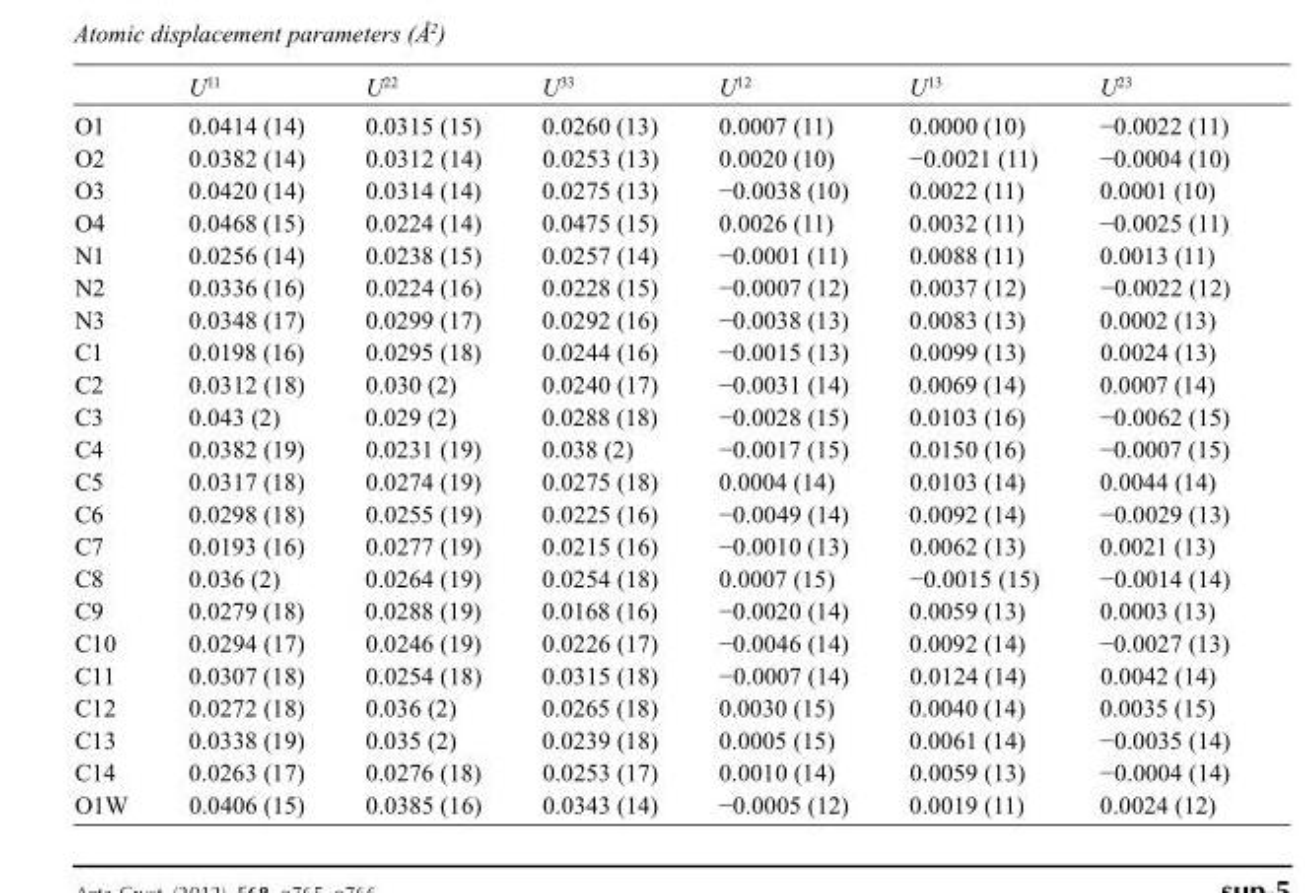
<table><thead><tr><td></td><td>U<sup>11</sup></td><td>U<sup>22</sup></td><td>U<sup>33</sup></td><td>U<sup>12</sup></td><td>U<sup>13</sup></td><td>U<sup>23</sup></td></tr></thead><tbody><tr><td>O1</td><td>0.0414 (14)</td><td>0.0315 (15)</td><td>0.0260 (13)</td><td>0.0007 (11)</td><td>0.0000 (10)</td><td>−0.0022 (11)</td></tr><tr><td>O2</td><td>0.0382 (14)</td><td>0.0312 (14)</td><td>0.0253 (13)</td><td>0.0020 (10)</td><td>−0.0021 (11)</td><td>−0.0004 (10)</td></tr><tr><td>O3</td><td>0.0420 (14)</td><td>0.0314 (14)</td><td>0.0275 (13)</td><td>−0.0038 (10)</td><td>0.0022 (11)</td><td>0.0001 (10)</td></tr><tr><td>O4</td><td>0.0468 (15)</td><td>0.0224 (14)</td><td>0.0475 (15)</td><td>0.0026 (11)</td><td>0.0032 (11)</td><td>−0.0025 (11)</td></tr><tr><td>N1</td><td>0.0256 (14)</td><td>0.0238 (15)</td><td>0.0257 (14)</td><td>−0.0001 (11)</td><td>0.0088 (11)</td><td>0.0013 (11)</td></tr><tr><td>N2</td><td>0.0336 (16)</td><td>0.0224 (16)</td><td>0.0228 (15)</td><td>−0.0007 (12)</td><td>0.0037 (12)</td><td>−0.0022 (12)</td></tr><tr><td>N3</td><td>0.0348 (17)</td><td>0.0299 (17)</td><td>0.0292 (16)</td><td>−0.0038 (13)</td><td>0.0083 (13)</td><td>0.0002 (13)</td></tr><tr><td>C1</td><td>0.0198 (16)</td><td>0.0295 (18)</td><td>0.0244 (16)</td><td>−0.0015 (13)</td><td>0.0099 (13)</td><td>0.0024 (13)</td></tr><tr><td>C2</td><td>0.0312 (18)</td><td>0.030 (2)</td><td>0.0240 (17)</td><td>−0.0031 (14)</td><td>0.0069 (14)</td><td>0.0007 (14)</td></tr><tr><td>C3</td><td>0.043 (2)</td><td>0.029 (2)</td><td>0.0288 (18)</td><td>−0.0028 (15)</td><td>0.0103 (16)</td><td>−0.0062 (15)</td></tr><tr><td>C4</td><td>0.0382 (19)</td><td>0.0231 (19)</td><td>0.038 (2)</td><td>−0.0017 (15)</td><td>0.0150 (16)</td><td>−0.0007 (15)</td></tr><tr><td>C5</td><td>0.0317 (18)</td><td>0.0274 (19)</td><td>0.0275 (18)</td><td>0.0004 (14)</td><td>0.0103 (14)</td><td>0.0044 (14)</td></tr><tr><td>C6</td><td>0.0298 (18)</td><td>0.0255 (19)</td><td>0.0225 (16)</td><td>−0.0049 (14)</td><td>0.0092 (14)</td><td>−0.0029 (13)</td></tr><tr><td>C7</td><td>0.0193 (16)</td><td>0.0277 (19)</td><td>0.0215 (16)</td><td>−0.0010 (13)</td><td>0.0062 (13)</td><td>0.0021 (13)</td></tr><tr><td>C8</td><td>0.036 (2)</td><td>0.0264 (19)</td><td>0.0254 (18)</td><td>0.0007 (15)</td><td>−0.0015 (15)</td><td>−0.0014 (14)</td></tr><tr><td>C9</td><td>0.0279 (18)</td><td>0.0288 (19)</td><td>0.0168 (16)</td><td>−0.0020 (14)</td><td>0.0059 (13)</td><td>0.0003 (13)</td></tr><tr><td>C10</td><td>0.0294 (17)</td><td>0.0246 (19)</td><td>0.0226 (17)</td><td>−0.0046 (14)</td><td>0.0092 (14)</td><td>−0.0027 (13)</td></tr><tr><td>C11</td><td>0.0307 (18)</td><td>0.0254 (18)</td><td>0.0315 (18)</td><td>−0.0007 (14)</td><td>0.0124 (14)</td><td>0.0042 (14)</td></tr><tr><td>C12</td><td>0.0272 (18)</td><td>0.036 (2)</td><td>0.0265 (18)</td><td>0.0030 (15)</td><td>0.0040 (14)</td><td>0.0035 (15)</td></tr><tr><td>C13</td><td>0.0338 (19)</td><td>0.035 (2)</td><td>0.0239 (18)</td><td>0.0005 (15)</td><td>0.0061 (14)</td><td>−0.0035 (14)</td></tr><tr><td>C14</td><td>0.0263 (17)</td><td>0.0276 (18)</td><td>0.0253 (17)</td><td>0.0010 (14)</td><td>0.0059 (13)</td><td>−0.0004 (14)</td></tr><tr><td>O1W</td><td>0.0406 (15)</td><td>0.0385 (16)</td><td>0.0343 (14)</td><td>−0.0005 (12)</td><td>0.0019 (11)</td><td>0.0024 (12)</td></tr></tbody></table>